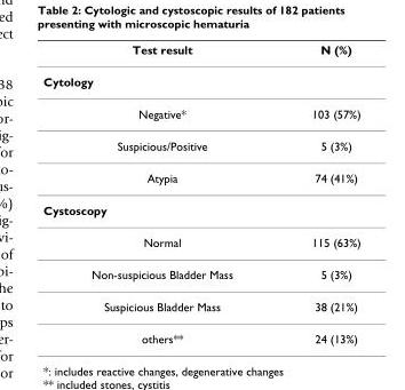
<table><thead><tr><td>Test result</td><td>N (%)</td></tr></thead><tbody><tr><td colspan="2">Cytology</td></tr><tr><td>Negative*</td><td>103 (57%)</td></tr><tr><td>Suspicious/Positive</td><td>5 (3%)</td></tr><tr><td>Atypia</td><td>74 (41%)</td></tr><tr><td colspan="2">Cystoscopy</td></tr><tr><td>Normal</td><td>115 (63%)</td></tr><tr><td>Non-suspicious Bladder Mass</td><td>5 (3%)</td></tr><tr><td>Suspicious Bladder Mass</td><td>38 (21%)</td></tr><tr><td>others**</td><td>24 (13%)</td></tr></tbody></table>